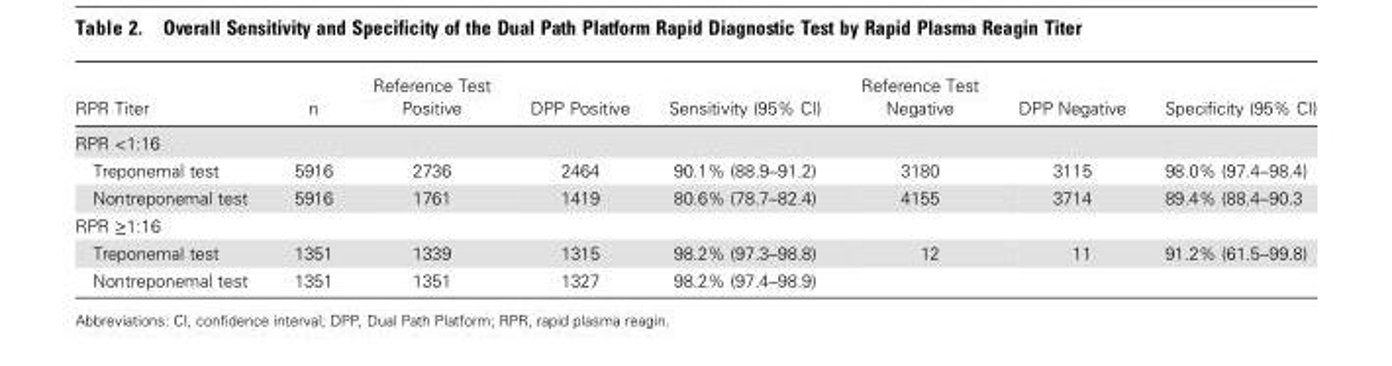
<table><thead><tr><td>RPR Titer</td><td>n</td><td>Reference Test Positive</td><td>DPP Positive</td><td>Sensitivity (95% CI)</td><td>Reference Test Negative</td><td>DPP Negative</td><td>Specificity (95% CI)</td></tr></thead><tbody><tr><td colspan="8">RPR &lt;1:16</td></tr><tr><td>Treponemal test</td><td>5916</td><td>2736</td><td>2464</td><td>90.1% (88.9–91.2)</td><td>3180</td><td>3115</td><td>98.0% (97.4–98.4)</td></tr><tr><td>Nontreponemal test</td><td>5916</td><td>1761</td><td>1419</td><td>80.6% (78.7–82.4)</td><td>4155</td><td>3714</td><td>89.4% (88.4–90.3</td></tr><tr><td colspan="8">RPR ≥1:16</td></tr><tr><td>Treponemal test</td><td>1351</td><td>1339</td><td>1315</td><td>98.2% (97.3–98.8)</td><td>12</td><td>11</td><td>91.2% (61.5–99.8)</td></tr><tr><td>Nontreponemal test</td><td>1351</td><td>1351</td><td>1327</td><td>98.2% (97.4–98.9)</td><td></td><td></td><td></td></tr></tbody></table>